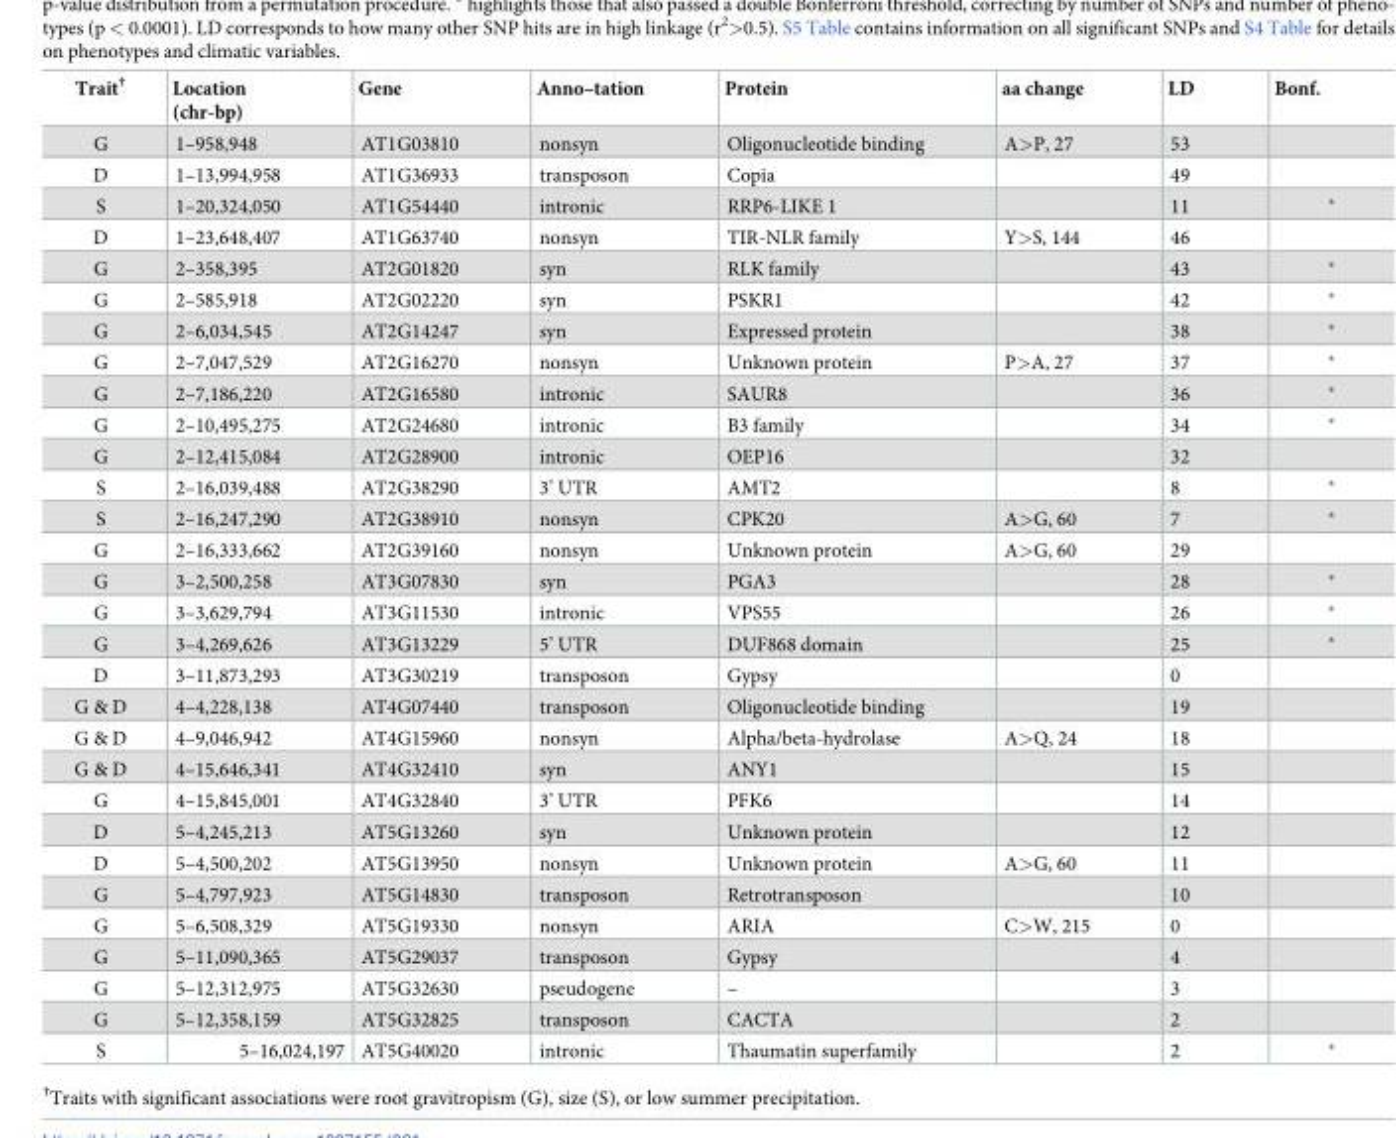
<table><thead><tr><td>Trait<sup>†</sup></td><td>Location (chr-bp)</td><td>Gene</td><td>Anno–tation</td><td>Protein</td><td>aa change</td><td>LD</td><td>Bonf.</td></tr></thead><tbody><tr><td>G</td><td>1–958,948</td><td>AT1G03810</td><td>nonsyn</td><td>Oligonucleotide binding</td><td>A&gt;P, 27</td><td>53</td><td></td></tr><tr><td>D</td><td>1–13,994,958</td><td>AT1G36933</td><td>transposon</td><td>Copia</td><td></td><td>49</td><td></td></tr><tr><td>S</td><td>1–20,324,050</td><td>AT1G54440</td><td>intronic</td><td>RRP6-LIKE 1</td><td></td><td>11</td><td></td></tr><tr><td>D</td><td>1–23,648,407</td><td>AT1G63740</td><td>nonsyn</td><td>TIR-NLR family</td><td>Y&gt;S, 144</td><td>46</td><td></td></tr><tr><td>G</td><td>2–358,395</td><td>AT2G01820</td><td>syn</td><td>RLK family</td><td></td><td>43</td><td></td></tr><tr><td>G</td><td>2–585,918</td><td>AT2G02220</td><td>syn</td><td>PSKR1</td><td></td><td>42</td><td></td></tr><tr><td>G</td><td>2–6,034,545</td><td>AT2G14247</td><td>syn</td><td>Expressed protein</td><td></td><td>38</td><td></td></tr><tr><td>G</td><td>2–7,047,529</td><td>AT2G16270</td><td>nonsyn</td><td>Unknown protein</td><td>P&gt;A, 27</td><td>37</td><td></td></tr><tr><td>G</td><td>2–7,186,220</td><td>AT2G16580</td><td>intronic</td><td>SAUR8</td><td></td><td>36</td><td></td></tr><tr><td>G</td><td>2–10,495,275</td><td>AT2G24680</td><td>intronic</td><td>B3 family</td><td></td><td>34</td><td></td></tr><tr><td>G</td><td>2–12,415,084</td><td>AT2G28900</td><td>intronic</td><td>OEP16</td><td></td><td>32</td><td></td></tr><tr><td>S</td><td>2–16,039,488</td><td>AT2G38290</td><td>3’ UTR</td><td>AMT2</td><td></td><td>8</td><td></td></tr><tr><td>S</td><td>2–16,247,290</td><td>AT2G38910</td><td>nonsyn</td><td>CPK20</td><td>A&gt;G, 60</td><td>7</td><td></td></tr><tr><td>G</td><td>2–16,333,662</td><td>AT2G39160</td><td>nonsyn</td><td>Unknown protein</td><td>A&gt;G, 60</td><td>29</td><td></td></tr><tr><td>G</td><td>3–2,500,258</td><td>AT3G07830</td><td>syn</td><td>PGA3</td><td></td><td>28</td><td></td></tr><tr><td>G</td><td>3–3,629,794</td><td>AT3G11530</td><td>intronic</td><td>VPS55</td><td></td><td>26</td><td></td></tr><tr><td>G</td><td>3–4,269,626</td><td>AT3G13229</td><td>5’ UTR</td><td>DUF868 domain</td><td></td><td>25</td><td></td></tr><tr><td>D</td><td>3–11,873,293</td><td>AT3G30219</td><td>transposon</td><td>Gypsy</td><td></td><td>0</td><td></td></tr><tr><td>G &amp; D</td><td>4–4,228,138</td><td>AT4G07440</td><td>transposon</td><td>Oligonucleotide binding</td><td></td><td>19</td><td></td></tr><tr><td>G &amp; D</td><td>4–9,046,942</td><td>AT4G15960</td><td>nonsyn</td><td>Alpha/beta-hydrolase</td><td>A&gt;Q, 24</td><td>18</td><td></td></tr><tr><td>G &amp; D</td><td>4–15,646,341</td><td>AT4G32410</td><td>syn</td><td>ANY1</td><td></td><td>15</td><td></td></tr><tr><td>G</td><td>4–15,845,001</td><td>AT4G32840</td><td>3’ UTR</td><td>PFK6</td><td></td><td>14</td><td></td></tr><tr><td>D</td><td>5–4,245,213</td><td>AT5G13260</td><td>syn</td><td>Unknown protein</td><td></td><td>12</td><td></td></tr><tr><td>D</td><td>5–4,500,202</td><td>AT5G13950</td><td>nonsyn</td><td>Unknown protein</td><td>A&gt;G, 60</td><td>11</td><td></td></tr><tr><td>G</td><td>5–4,797,923</td><td>AT5G14830</td><td>transposon</td><td>Retrotransposon</td><td></td><td>10</td><td></td></tr><tr><td>G</td><td>5–6,508,329</td><td>AT5G19330</td><td>nonsyn</td><td>ARIA</td><td>C&gt;W, 215</td><td>0</td><td></td></tr><tr><td>G</td><td>5–11,090,365</td><td>AT5G29037</td><td>transposon</td><td>Gypsy</td><td></td><td>4</td><td></td></tr><tr><td>G</td><td>5–12,312,975</td><td>AT5G32630</td><td>pseudogene</td><td>–</td><td></td><td>3</td><td></td></tr><tr><td>G</td><td>5–12,358,159</td><td>AT5G32825</td><td>transposon</td><td>CACTA</td><td></td><td>2</td><td></td></tr><tr><td>S</td><td>5–16,024,197</td><td>AT5G40020</td><td>intronic</td><td>Thaumatin superfamily</td><td></td><td>2</td><td></td></tr></tbody></table>